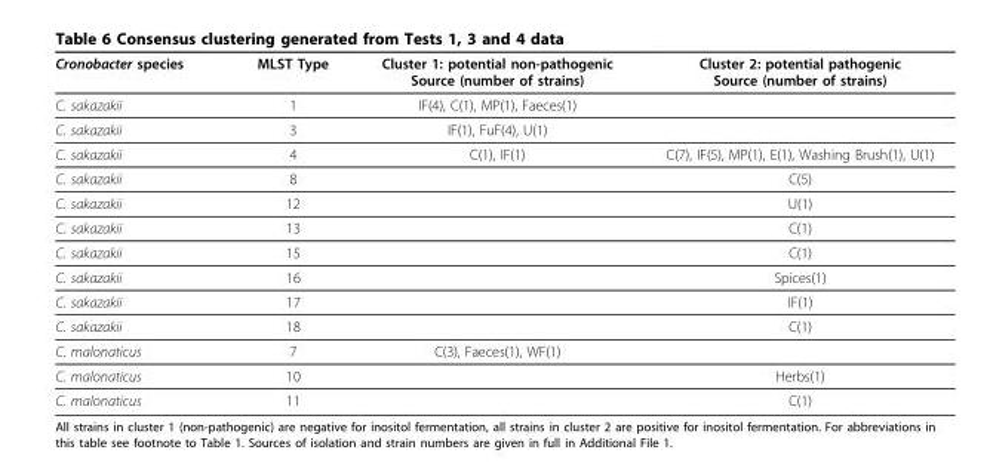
<table><thead><tr><td>Cronobacter species</td><td>MLST Type</td><td>Cluster 1: potential non-pathogenic Source (number of strains)</td><td>Cluster 2: potential pathogenic Source (number of strains)</td></tr></thead><tbody><tr><td>C. sakazakii</td><td>1</td><td>IF(4), C(1), MP(1), Faeces(1)</td><td></td></tr><tr><td>C. sakazakii</td><td>3</td><td>IF(1), FuF(4), U(1)</td><td></td></tr><tr><td>C. sakazakii</td><td>4</td><td>C(1), IF(1)</td><td>C(7), IF(5), MP(1), E(1), Washing Brush(1), U(1)</td></tr><tr><td>C. sakazakii</td><td>8</td><td></td><td>C(5)</td></tr><tr><td>C. sakazakii</td><td>12</td><td></td><td>U(1)</td></tr><tr><td>C. sakazakii</td><td>13</td><td></td><td>C(1)</td></tr><tr><td>C. sakazakii</td><td>15</td><td></td><td>C(1)</td></tr><tr><td>C. sakazakii</td><td>16</td><td></td><td>Spices(1)</td></tr><tr><td>C. sakazakii</td><td>17</td><td></td><td>IF(1)</td></tr><tr><td>C. sakazakii</td><td>18</td><td></td><td>C(1)</td></tr><tr><td>C. malonaticus</td><td>7</td><td>C(3), Faeces(1), WF(1)</td><td></td></tr><tr><td>C. malonaticus</td><td>10</td><td></td><td>Herbs(1)</td></tr><tr><td>C. malonaticus</td><td>11</td><td></td><td>C(1)</td></tr></tbody></table>